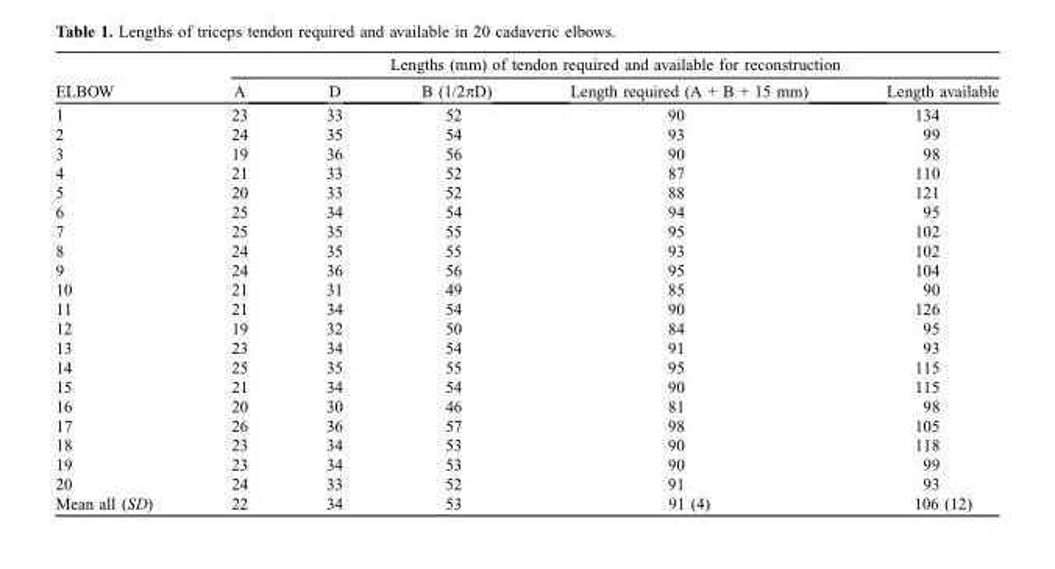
<table><thead><tr><td rowspan="2">ELBOW</td><td colspan="5">Lengths (mm) of tendon required and available for reconstruction</td></tr><tr><td>A</td><td>D</td><td>B (1/2πD)</td><td>Length required (A + B + 15 mm)</td><td>Length available</td></tr></thead><tbody><tr><td>1</td><td>23</td><td>33</td><td>52</td><td>90</td><td>134</td></tr><tr><td>2</td><td>24</td><td>35</td><td>54</td><td>93</td><td>99</td></tr><tr><td>3</td><td>19</td><td>36</td><td>56</td><td>90</td><td>98</td></tr><tr><td>4</td><td>21</td><td>33</td><td>52</td><td>87</td><td>110</td></tr><tr><td>5</td><td>20</td><td>33</td><td>52</td><td>88</td><td>121</td></tr><tr><td>6</td><td>25</td><td>34</td><td>54</td><td>94</td><td>95</td></tr><tr><td>7</td><td>25</td><td>35</td><td>55</td><td>95</td><td>102</td></tr><tr><td>8</td><td>24</td><td>35</td><td>55</td><td>93</td><td>102</td></tr><tr><td>9</td><td>24</td><td>36</td><td>56</td><td>95</td><td>104</td></tr><tr><td>10</td><td>21</td><td>31</td><td>49</td><td>85</td><td>90</td></tr><tr><td>11</td><td>21</td><td>34</td><td>54</td><td>90</td><td>126</td></tr><tr><td>12</td><td>19</td><td>32</td><td>50</td><td>84</td><td>95</td></tr><tr><td>13</td><td>23</td><td>34</td><td>54</td><td>91</td><td>93</td></tr><tr><td>14</td><td>25</td><td>35</td><td>55</td><td>95</td><td>115</td></tr><tr><td>15</td><td>21</td><td>34</td><td>54</td><td>90</td><td>115</td></tr><tr><td>16</td><td>20</td><td>30</td><td>46</td><td>81</td><td>98</td></tr><tr><td>17</td><td>26</td><td>36</td><td>57</td><td>98</td><td>105</td></tr><tr><td>18</td><td>23</td><td>34</td><td>53</td><td>90</td><td>118</td></tr><tr><td>19</td><td>23</td><td>34</td><td>53</td><td>90</td><td>99</td></tr><tr><td>20</td><td>24</td><td>33</td><td>52</td><td>91</td><td>93</td></tr><tr><td>Mean all (SD)</td><td>22</td><td>34</td><td>53</td><td>91 (4)</td><td>106 (12)</td></tr></tbody></table>